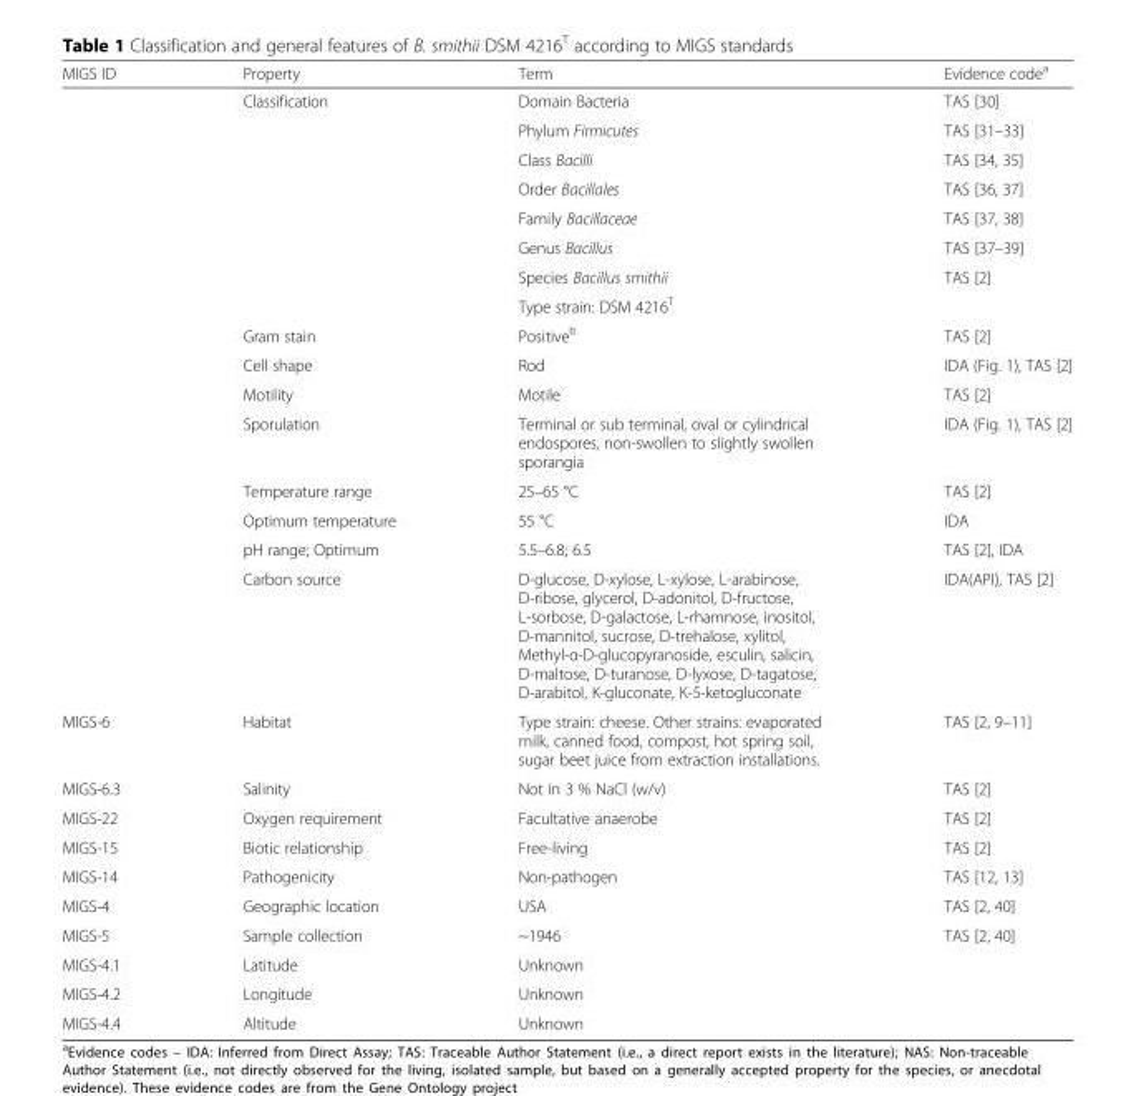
<table><thead><tr><td>MIGS ID</td><td>Property</td><td>Term</td><td>Evidence code<sup>a</sup></td></tr></thead><tbody><tr><td rowspan="16"></td><td rowspan="8">Classification</td><td>Domain Bacteria</td><td>TAS [30]</td></tr><tr><td>Phylum Firmicutes</td><td>TAS [31–33]</td></tr><tr><td>Class Bacilli</td><td>TAS [34, 35]</td></tr><tr><td>Order Bacillales</td><td>TAS [36, 37]</td></tr><tr><td>Family Bacillaceae</td><td>TAS [37, 38]</td></tr><tr><td>Genus Bacillus</td><td>TAS [37–39]</td></tr><tr><td>Species Bacillus smithii</td><td>TAS [2]</td></tr><tr><td>Type strain: DSM 4216<sup>T</sup></td><td></td></tr><tr><td>Gram stain</td><td>Positive<sup>b</sup></td><td>TAS [2]</td></tr><tr><td>Cell shape</td><td>Rod</td><td>IDA (Fig. 1), TAS [2]</td></tr><tr><td>Motility</td><td>Motile</td><td>TAS [2]</td></tr><tr><td>Sporulation</td><td>Terminal or sub terminal, oval or cylindrical endospores, non-swollen to slightly swollen sporangia</td><td>IDA (Fig. 1), TAS [2]</td></tr><tr><td>Temperature range</td><td>25–65 °C</td><td>TAS [2]</td></tr><tr><td>Optimum temperature</td><td>55 °C</td><td>IDA</td></tr><tr><td>pH range; Optimum</td><td>5.5–6.8; 6.5</td><td>TAS [2], IDA</td></tr><tr><td>Carbon source</td><td>D-glucose, D-xylose, L-xylose, L-arabinose, D-ribose, glycerol, D-adonitol, D-fructose, L-sorbose, D-galactose, L-rhamnose, inositol, D-mannitol, sucrose, D-trehalose, xylitol, Methyl-α-D-glucopyranoside, esculin, salicin, D-maltose, D-turanose, D-lyxose, D-tagatose, D-arabitol, K-gluconate, K-5-ketogluconate</td><td>IDA(API), TAS [2]</td></tr><tr><td>MIGS-6</td><td>Habitat</td><td>Type strain: cheese. Other strains: evaporated milk, canned food, compost, hot spring soil, sugar beet juice from extraction installations.</td><td>TAS [2, 9–11]</td></tr><tr><td>MIGS-6.3</td><td>Salinity</td><td>Not in 3 % NaCl (w/v)</td><td>TAS [2]</td></tr><tr><td>MIGS-22</td><td>Oxygen requirement</td><td>Facultative anaerobe</td><td>TAS [2]</td></tr><tr><td>MIGS-15</td><td>Biotic relationship</td><td>Free-living</td><td>TAS [2]</td></tr><tr><td>MIGS-14</td><td>Pathogenicity</td><td>Non-pathogen</td><td>TAS [12, 13]</td></tr><tr><td>MIGS-4</td><td>Geographic location</td><td>USA</td><td>TAS [2, 40]</td></tr><tr><td>MIGS-5</td><td>Sample collection</td><td>~1946</td><td>TAS [2, 40]</td></tr><tr><td>MIGS-4.1</td><td>Latitude</td><td>Unknown</td><td></td></tr><tr><td>MIGS-4.2</td><td>Longitude</td><td>Unknown</td><td></td></tr><tr><td>MIGS-4.4</td><td>Altitude</td><td>Unknown</td><td></td></tr></tbody></table>